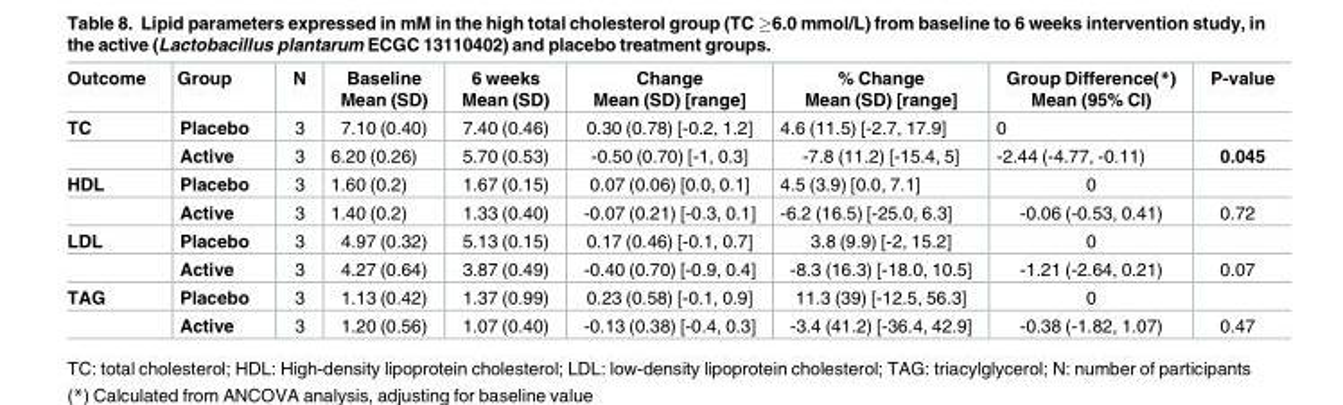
<table><thead><tr><td>Outcome</td><td>Group</td><td>N</td><td>Baseline Mean (SD)</td><td>6 weeks Mean (SD)</td><td>Change Mean (SD) [range]</td><td>% Change Mean (SD) [range]</td><td>Group Difference(*) Mean (95% CI)</td><td>P-value</td></tr></thead><tbody><tr><td rowspan="2">TC</td><td>Placebo</td><td>3</td><td>7.10 (0.40)</td><td>7.40 (0.46)</td><td>0.30 (0.78) [-0.2, 1.2]</td><td>4.6 (11.5) [-2.7, 17.9]</td><td>0</td><td></td></tr><tr><td>Active</td><td>3</td><td>6.20 (0.26)</td><td>5.70 (0.53)</td><td>-0.50 (0.70) [-1, 0.3]</td><td>-7.8 (11.2) [-15.4, 5]</td><td>-2.44 (-4.77, -0.11)</td><td>0.045</td></tr><tr><td rowspan="2">HDL</td><td>Placebo</td><td>3</td><td>1.60 (0.2)</td><td>1.67 (0.15)</td><td>0.07 (0.06) [0.0, 0.1]</td><td>4.5 (3.9) [0.0, 7.1]</td><td>0</td><td></td></tr><tr><td>Active</td><td>3</td><td>1.40 (0.2)</td><td>1.33 (0.40)</td><td>-0.07 (0.21) [-0.3, 0.1]</td><td>-6.2 (16.5) [-25.0, 6.3]</td><td>-0.06 (-0.53, 0.41)</td><td>0.72</td></tr><tr><td rowspan="2">LDL</td><td>Placebo</td><td>3</td><td>4.97 (0.32)</td><td>5.13 (0.15)</td><td>0.17 (0.46) [-0.1, 0.7]</td><td>3.8 (9.9) [-2, 15.2]</td><td>0</td><td></td></tr><tr><td>Active</td><td>3</td><td>4.27 (0.64)</td><td>3.87 (0.49)</td><td>-0.40 (0.70) [-0.9, 0.4]</td><td>-8.3 (16.3) [-18.0, 10.5]</td><td>-1.21 (-2.64, 0.21)</td><td>0.07</td></tr><tr><td rowspan="2">TAG</td><td>Placebo</td><td>3</td><td>1.13 (0.42)</td><td>1.37 (0.99)</td><td>0.23 (0.58) [-0.1, 0.9]</td><td>11.3 (39) [-12.5, 56.3]</td><td>0</td><td></td></tr><tr><td>Active</td><td>3</td><td>1.20 (0.56)</td><td>1.07 (0.40)</td><td>-0.13 (0.38) [-0.4, 0.3]</td><td>-3.4 (41.2) [-36.4, 42.9]</td><td>-0.38 (-1.82, 1.07)</td><td>0.47</td></tr></tbody></table>